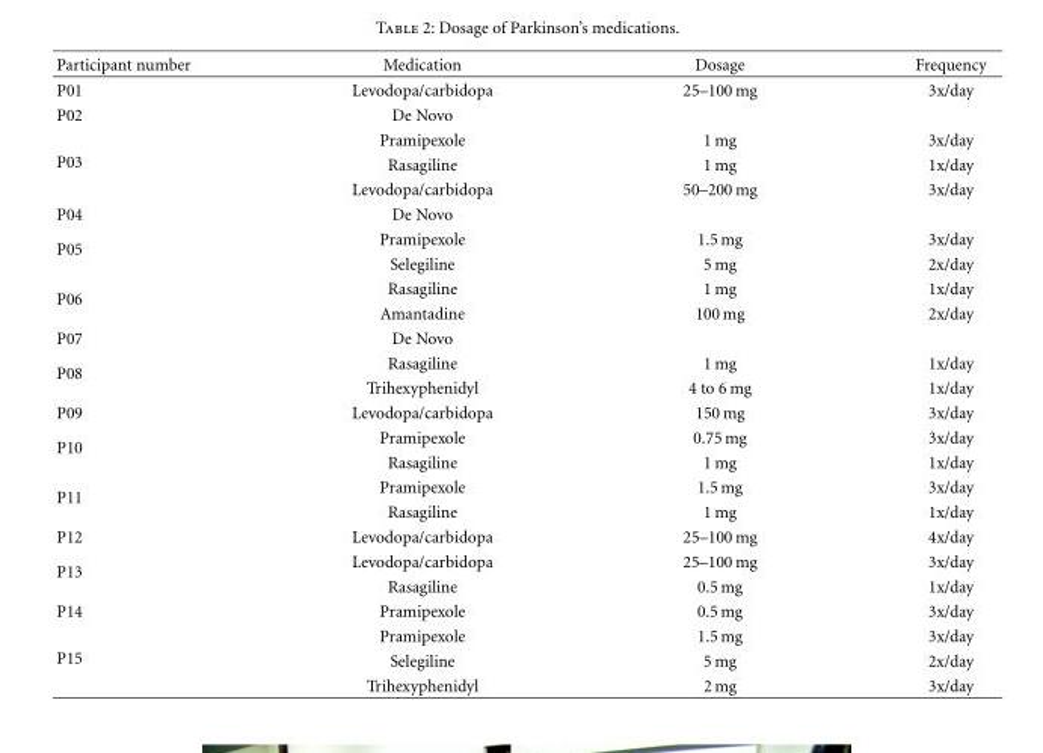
<table><thead><tr><td>Participant number</td><td>Medication</td><td>Dosage</td><td>Frequency</td></tr></thead><tbody><tr><td>P01</td><td>Levodopa/carbidopa</td><td>25–100 mg</td><td>3x/day</td></tr><tr><td>P02</td><td>De Novo</td><td></td><td></td></tr><tr><td rowspan="3">P03</td><td>Pramipexole</td><td>1 mg</td><td>3x/day</td></tr><tr><td>Rasagiline</td><td>1 mg</td><td>1x/day</td></tr><tr><td>Levodopa/carbidopa</td><td>50–200 mg</td><td>3x/day</td></tr><tr><td>P04</td><td>De Novo</td><td></td><td></td></tr><tr><td rowspan="2">P05</td><td>Pramipexole</td><td>1.5 mg</td><td>3x/day</td></tr><tr><td>Selegiline</td><td>5 mg</td><td>2x/day</td></tr><tr><td rowspan="2">P06</td><td>Rasagiline</td><td>1 mg</td><td>1x/day</td></tr><tr><td>Amantadine</td><td>100 mg</td><td>2x/day</td></tr><tr><td>P07</td><td>De Novo</td><td></td><td></td></tr><tr><td rowspan="2">P08</td><td>Rasagiline</td><td>1 mg</td><td>1x/day</td></tr><tr><td>Trihexyphenidyl</td><td>4 to 6 mg</td><td>1x/day</td></tr><tr><td>P09</td><td>Levodopa/carbidopa</td><td>150 mg</td><td>3x/day</td></tr><tr><td rowspan="2">P10</td><td>Pramipexole</td><td>0.75 mg</td><td>3x/day</td></tr><tr><td>Rasagiline</td><td>1 mg</td><td>1x/day</td></tr><tr><td rowspan="2">P11</td><td>Pramipexole</td><td>1.5 mg</td><td>3x/day</td></tr><tr><td>Rasagiline</td><td>1 mg</td><td>1x/day</td></tr><tr><td>P12</td><td>Levodopa/carbidopa</td><td>25–100 mg</td><td>4x/day</td></tr><tr><td rowspan="2">P13</td><td>Levodopa/carbidopa</td><td>25–100 mg</td><td>3x/day</td></tr><tr><td>Rasagiline</td><td>0.5 mg</td><td>1x/day</td></tr><tr><td>P14</td><td>Pramipexole</td><td>0.5 mg</td><td>3x/day</td></tr><tr><td rowspan="3">P15</td><td>Pramipexole</td><td>1.5 mg</td><td>3x/day</td></tr><tr><td>Selegiline</td><td>5 mg</td><td>2x/day</td></tr><tr><td>Trihexyphenidyl</td><td>2 mg</td><td>3x/day</td></tr></tbody></table>